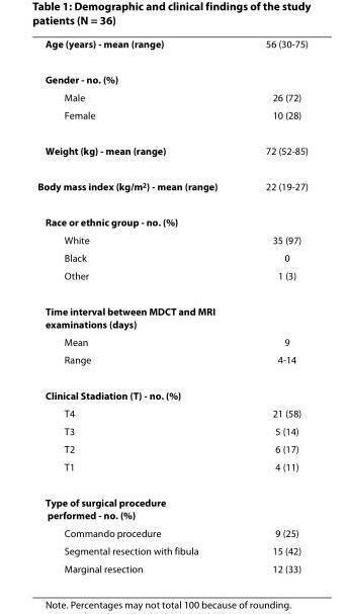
<table><tbody><tr><td>Age (years) - mean (range)</td><td>56 (30-75)</td></tr><tr><td colspan="2">Gender - no. (%)</td></tr><tr><td>Male</td><td>26 (72)</td></tr><tr><td>Female</td><td>10 (28)</td></tr><tr><td>Weight (kg) - mean (range)</td><td>72 (52-85)</td></tr><tr><td>Body mass index (kg/m<sup>2</sup>) - mean (range)</td><td>22 (19-27)</td></tr><tr><td colspan="2">Race or ethnic group - no. (%)</td></tr><tr><td>White</td><td>35 (97)</td></tr><tr><td>Black</td><td>0</td></tr><tr><td>Other</td><td>1 (3)</td></tr><tr><td colspan="2">Time interval between MDCT and MRI examinations (days)</td></tr><tr><td>Mean</td><td>9</td></tr><tr><td>Range</td><td>4-14</td></tr><tr><td colspan="2">Clinical Stadiation (T) - no. (%)</td></tr><tr><td>T4</td><td>21 (58)</td></tr><tr><td>T3</td><td>5 (14)</td></tr><tr><td>T2</td><td>6 (17)</td></tr><tr><td>T1</td><td>4 (11)</td></tr><tr><td colspan="2">Type of surgical procedure performed - no. (%)</td></tr><tr><td>Commando procedure</td><td>9 (25)</td></tr><tr><td>Segmental resection with fibula</td><td>15 (42)</td></tr><tr><td>Marginal resection</td><td>12 (33)</td></tr></tbody></table>